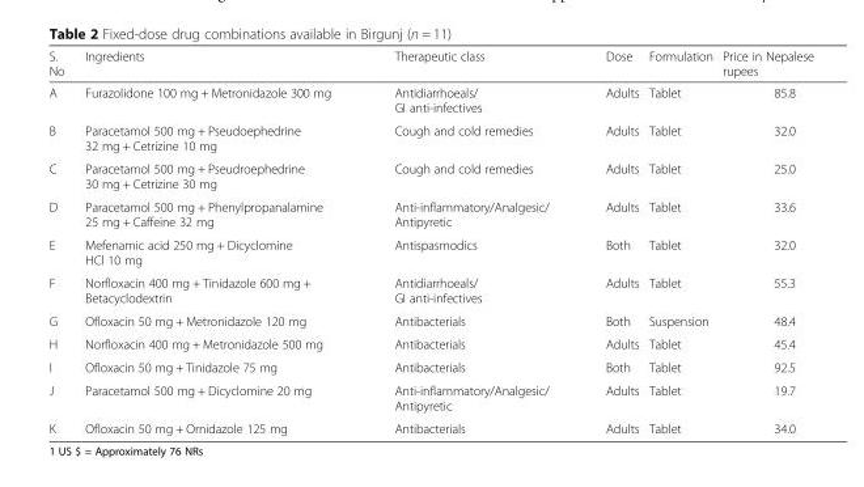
<table><thead><tr><td>S. No</td><td>Ingredients</td><td>Therapeutic class</td><td>Dose</td><td>Formulation</td><td>Price in Nepalese rupees</td></tr></thead><tbody><tr><td>A</td><td>Furazolidone 100 mg + Metronidazole 300 mg</td><td>Antidiarrhoeals/ GI anti-infectives</td><td>Adults</td><td>Tablet</td><td>85.8</td></tr><tr><td>B</td><td>Paracetamol 500 mg + Pseudoephedrine 32 mg + Cetrizine 10 mg</td><td>Cough and cold remedies</td><td>Adults</td><td>Tablet</td><td>32.0</td></tr><tr><td>C</td><td>Paracetamol 500 mg + Pseudroephedrine 30 mg + Cetrizine 30 mg</td><td>Cough and cold remedies</td><td>Adults</td><td>Tablet</td><td>25.0</td></tr><tr><td>D</td><td>Paracetamol 500 mg + Phenylpropanalamine 25 mg + Caffeine 32 mg</td><td>Anti-inflammatory/Analgesic/ Antipyretic</td><td>Adults</td><td>Tablet</td><td>33.6</td></tr><tr><td>E</td><td>Mefenamic acid 250 mg + Dicyclomine HCl 10 mg</td><td>Antispasmodics</td><td>Both</td><td>Tablet</td><td>32.0</td></tr><tr><td>F</td><td>Norfloxacin 400 mg + Tinidazole 600 mg + Betacyclodextrin</td><td>Antidiarrhoeals/ GI anti-infectives</td><td>Adults</td><td>Tablet</td><td>55.3</td></tr><tr><td>G</td><td>Ofloxacin 50 mg + Metronidazole 120 mg</td><td>Antibacterials</td><td>Both</td><td>Suspension</td><td>48.4</td></tr><tr><td>H</td><td>Norfloxacin 400 mg + Metronidazole 500 mg</td><td>Antibacterials</td><td>Adults</td><td>Tablet</td><td>45.4</td></tr><tr><td>I</td><td>Ofloxacin 50 mg + Tinidazole 75 mg</td><td>Antibacterials</td><td>Both</td><td>Tablet</td><td>92.5</td></tr><tr><td>J</td><td>Paracetamol 500 mg + Dicyclomine 20 mg</td><td>Anti-inflammatory/Analgesic/ Antipyretic</td><td>Adults</td><td>Tablet</td><td>19.7</td></tr><tr><td>K</td><td>Ofloxacin 50 mg + Ornidazole 125 mg</td><td>Antibacterials</td><td>Adults</td><td>Tablet</td><td>34.0</td></tr></tbody></table>